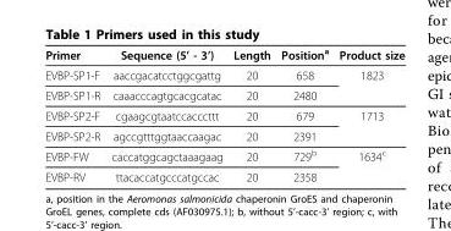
<table><thead><tr><td>Primer</td><td>Sequence (5’ - 3’)</td><td>Length</td><td>Position<sup>a</sup></td><td>Product size</td></tr></thead><tbody><tr><td>EVBP-SP1-F</td><td>aaccgacatcctggcgattg</td><td>20</td><td>658</td><td>1823</td></tr><tr><td>EVBP-SP1-R</td><td>caaacccagtgcacgcatac</td><td>20</td><td>2480</td><td></td></tr><tr><td>EVBP-SP2-F</td><td>cgaagcgtaatccacccttt</td><td>20</td><td>679</td><td>1713</td></tr><tr><td>EVBP-SP2-R</td><td>agccgtttggtaaccaagac</td><td>20</td><td>2391</td><td></td></tr><tr><td>EVBP-FW</td><td>caccatggcagctaaagaag</td><td>20</td><td>729<sup>b</sup></td><td>1634<sup>c</sup></td></tr><tr><td>EVBP-RV</td><td>ttacaccatgcccatgccac</td><td>20</td><td>2358</td><td></td></tr></tbody></table>